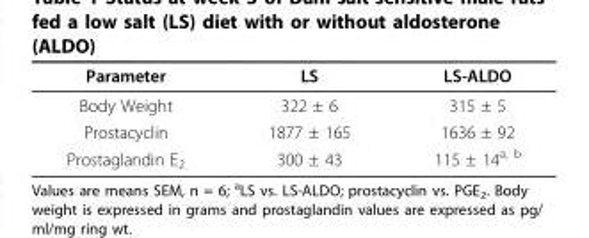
<table><thead><tr><td>Parameter</td><td>LS</td><td>LS-ALDO</td></tr></thead><tbody><tr><td>Body Weight</td><td>322 ± 6</td><td>315 ± 5</td></tr><tr><td>Prostacyclin</td><td>1877 ± 165</td><td>1636 ± 92</td></tr><tr><td>Prostaglandin E<sub>2</sub></td><td>300 ± 43</td><td>115 ± 14<sup>a, b</sup></td></tr></tbody></table>